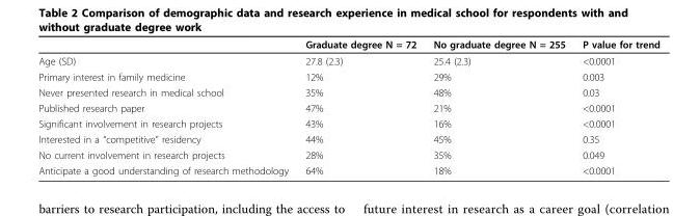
<table><thead><tr><td></td><td>Graduate degree N = 72</td><td>No graduate degree N = 255</td><td>P value for trend</td></tr></thead><tbody><tr><td>Age (SD)</td><td>27.8 (2.3)</td><td>25.4 (2.3)</td><td>&lt;0.0001</td></tr><tr><td>Primary interest in family medicine</td><td>12%</td><td>29%</td><td>0.003</td></tr><tr><td>Never presented research in medical school</td><td>35%</td><td>48%</td><td>0.03</td></tr><tr><td>Published research paper</td><td>47%</td><td>21%</td><td>&lt;0.0001</td></tr><tr><td>Significant involvement in research projects</td><td>43%</td><td>16%</td><td>&lt;0.0001</td></tr><tr><td>Interested in a “competitive” residency</td><td>44%</td><td>45%</td><td>0.35</td></tr><tr><td>No current involvement in research projects</td><td>28%</td><td>35%</td><td>0.049</td></tr><tr><td>Anticipate a good understanding of research methodology</td><td>64%</td><td>18%</td><td>&lt;0.0001</td></tr></tbody></table>